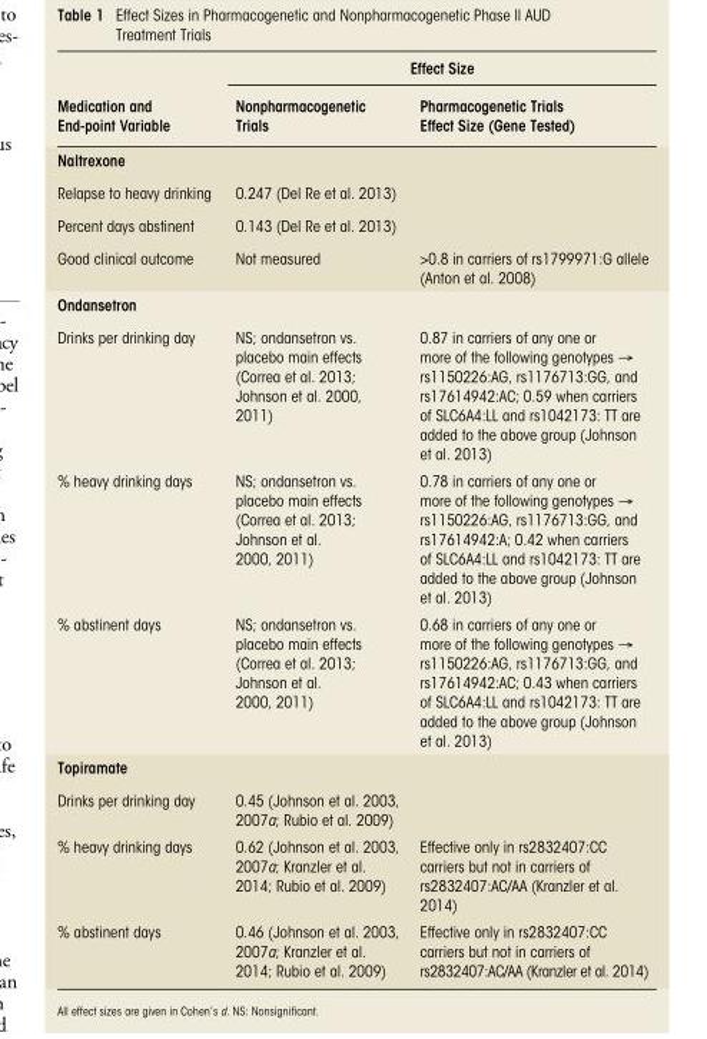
<table><thead><tr><td rowspan="2">Medication and End-point Variable</td><td colspan="2">Effect Size</td></tr><tr><td>Nonpharmacogenetic Trials</td><td>Pharmacogenetic Trials Effect Size (Gene Tested)</td></tr></thead><tbody><tr><td colspan="3">Naltrexone</td></tr><tr><td>Relapse to heavy drinking</td><td>0.247 (Del Re et al. 2013)</td><td></td></tr><tr><td>Percent days abstinent</td><td>0.143 (Del Re et al. 2013)</td><td></td></tr><tr><td>Good clinical outcome</td><td>Not measured</td><td>&gt;0.8 in carriers of rs1799971:G allele (Anton et al. 2008)</td></tr><tr><td colspan="3">Ondansetron</td></tr><tr><td>Drinks per drinking day</td><td>NS; ondansetron vs. placebo main effects (Correa et al. 2013; Johnson et al. 2000, 2011)</td><td>0.87 in carriers of any one or more of the following genotypes → rs1150226:AG, rs1176713:GG, and rs17614942:AC; 0.59 when carriers of SLC6A4:LL and rs1042173: TT are added to the above group (Johnson et al. 2013)</td></tr><tr><td>% heavy drinking days</td><td>NS; ondansetron vs. placebo main effects (Correa et al. 2013; Johnson et al. 2000, 2011)</td><td>0.78 in carriers of any one or more of the following genotypes → rs1150226:AG, rs1176713:GG, and rs17614942:A; 0.42 when carriers of SLC6A4:LL and rs1042173: TT are added to the above group (Johnson et al. 2013)</td></tr><tr><td>% abstinent days</td><td>NS; ondansetron vs. placebo main effects (Correa et al. 2013; Johnson et al. 2000, 2011)</td><td>0.68 in carriers of any one or more of the following genotypes → rs1150226:AG, rs1176713:GG, and rs17614942:AC; 0.43 when carriers of SLC6A4:LL and rs1042173: TT are added to the above group (Johnson et al. 2013)</td></tr><tr><td colspan="3">Topiramate</td></tr><tr><td>Drinks per drinking day</td><td>0.45 (Johnson et al. 2003, 2007a; Rubio et al. 2009)</td><td></td></tr><tr><td>% heavy drinking days</td><td>0.62 (Johnson et al. 2003, 2007a; Kranzler et al. 2014; Rubio et al. 2009)</td><td>Effective only in rs2832407:CC carriers but not in carriers of rs2832407:AC/AA (Kranzler et al. 2014)</td></tr><tr><td>% abstinent days</td><td>0.46 (Johnson et al. 2003, 2007a; Kranzler et al. 2014; Rubio et al. 2009)</td><td>Effective only in rs2832407:CC carriers but not in carriers of rs2832407:AC/AA (Kranzler et al. 2014)</td></tr></tbody></table>